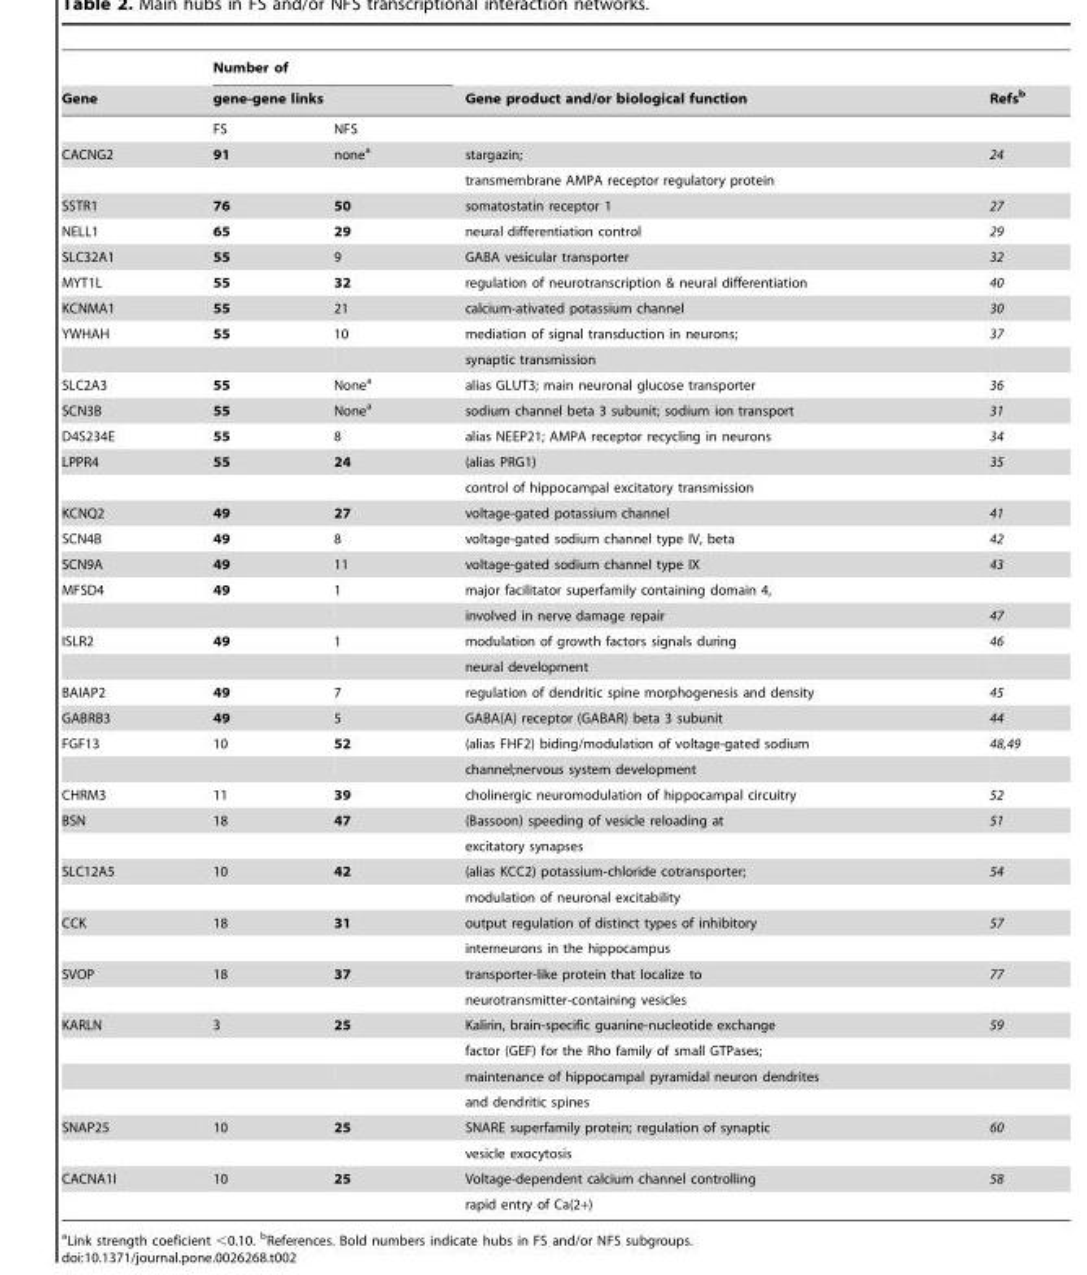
<table><thead><tr><td rowspan="3">Gene</td><td rowspan="2" colspan="2">Number of gene-gene links</td><td rowspan="3">Gene product and/or biological function</td><td rowspan="3">Refs<sup>b</sup></td></tr><tr></tr><tr><td>FS</td><td>NFS</td></tr></thead><tbody><tr><td rowspan="2">CACNG2</td><td>91</td><td>none<sup>a</sup></td><td>stargazin;</td><td>24</td></tr><tr><td></td><td></td><td>transmembrane AMPA receptor regulatory protein</td><td></td></tr><tr><td>SSTR1</td><td>76</td><td>50</td><td>somatostatin receptor 1</td><td>27</td></tr><tr><td>NELL1</td><td>65</td><td>29</td><td>neural differentiation control</td><td>29</td></tr><tr><td>SLC32A1</td><td>55</td><td>9</td><td>GABA vesicular transporter</td><td>32</td></tr><tr><td>MYT1L</td><td>55</td><td>32</td><td>regulation of neurotranscription &amp; neural differentiation</td><td>40</td></tr><tr><td>KCNMA1</td><td>55</td><td>21</td><td>calcium-ativated potassium channel</td><td>30</td></tr><tr><td rowspan="2">YWHAH</td><td>55</td><td>10</td><td>mediation of signal transduction in neurons;</td><td>37</td></tr><tr><td></td><td></td><td>synaptic transmission</td><td></td></tr><tr><td>SLC2A3</td><td>55</td><td>None<sup>a</sup></td><td>alias GLUT3; main neuronal glucose transporter</td><td>36</td></tr><tr><td>SCN3B</td><td>55</td><td>None<sup>a</sup></td><td>sodium channel beta 3 subunit; sodium ion transport</td><td>31</td></tr><tr><td>D4S234E</td><td>55</td><td>8</td><td>alias NEEP21; AMPA receptor recycling in neurons</td><td>34</td></tr><tr><td rowspan="2">LPPR4</td><td>55</td><td>24</td><td>(alias PRG1)</td><td>35</td></tr><tr><td></td><td></td><td>control of hippocampal excitatory transmission</td><td></td></tr><tr><td>KCNQ2</td><td>49</td><td>27</td><td>voltage-gated potassium channel</td><td>41</td></tr><tr><td>SCN4B</td><td>49</td><td>8</td><td>voltage-gated sodium channel type IV, beta</td><td>42</td></tr><tr><td>SCN9A</td><td>49</td><td>11</td><td>voltage-gated sodium channel type IX</td><td>43</td></tr><tr><td rowspan="2">MFSD4</td><td>49</td><td>1</td><td>major facilitator superfamily containing domain 4,</td><td></td></tr><tr><td></td><td></td><td>involved in nerve damage repair</td><td>47</td></tr><tr><td rowspan="2">ISLR2</td><td>49</td><td>1</td><td>modulation of growth factors signals during</td><td>46</td></tr><tr><td></td><td></td><td>neural development</td><td></td></tr><tr><td>BAIAP2</td><td>49</td><td>7</td><td>regulation of dendritic spine morphogenesis and density</td><td>45</td></tr><tr><td>GABRB3</td><td>49</td><td>5</td><td>GABA(A) receptor (GABAR) beta 3 subunit</td><td>44</td></tr><tr><td rowspan="2">FGF13</td><td>10</td><td>52</td><td>(alias FHF2) biding/modulation of voltage-gated sodium</td><td>48,49</td></tr><tr><td></td><td></td><td>channel;nervous system development</td><td></td></tr><tr><td>CHRM3</td><td>11</td><td>39</td><td>cholinergic neuromodulation of hippocampal circuitry</td><td>52</td></tr><tr><td rowspan="2">BSN</td><td>18</td><td>47</td><td>(Bassoon) speeding of vesicle reloading at</td><td>51</td></tr><tr><td></td><td></td><td>excitatory synapses</td><td></td></tr><tr><td rowspan="2">SLC12A5</td><td>10</td><td>42</td><td>(alias KCC2) potassium-chloride cotransporter;</td><td>54</td></tr><tr><td></td><td></td><td>modulation of neuronal excitability</td><td></td></tr><tr><td rowspan="2">CCK</td><td>18</td><td>31</td><td>output regulation of distinct types of inhibitory</td><td>57</td></tr><tr><td></td><td></td><td>interneurons in the hippocampus</td><td></td></tr><tr><td rowspan="2">SVOP</td><td>18</td><td>37</td><td>transporter-like protein that localize to</td><td>77</td></tr><tr><td></td><td></td><td>neurotransmitter-containing vesicles</td><td></td></tr><tr><td rowspan="4">KARLN</td><td>3</td><td>25</td><td>Kalirin, brain-specific guanine-nucleotide exchange</td><td>59</td></tr><tr><td></td><td></td><td>factor (GEF) for the Rho family of small GTPases;</td><td></td></tr><tr><td></td><td></td><td>maintenance of hippocampal pyramidal neuron dendrites</td><td></td></tr><tr><td></td><td></td><td>and dendritic spines</td><td></td></tr><tr><td rowspan="2">SNAP25</td><td>10</td><td>25</td><td>SNARE superfamily protein; regulation of synaptic</td><td>60</td></tr><tr><td></td><td></td><td>vesicle exocytosis</td><td></td></tr><tr><td rowspan="2">CACNA1I</td><td>10</td><td>25</td><td>Voltage-dependent calcium channel controlling</td><td>58</td></tr><tr><td></td><td></td><td>rapid entry of Ca(2+)</td><td></td></tr></tbody></table>